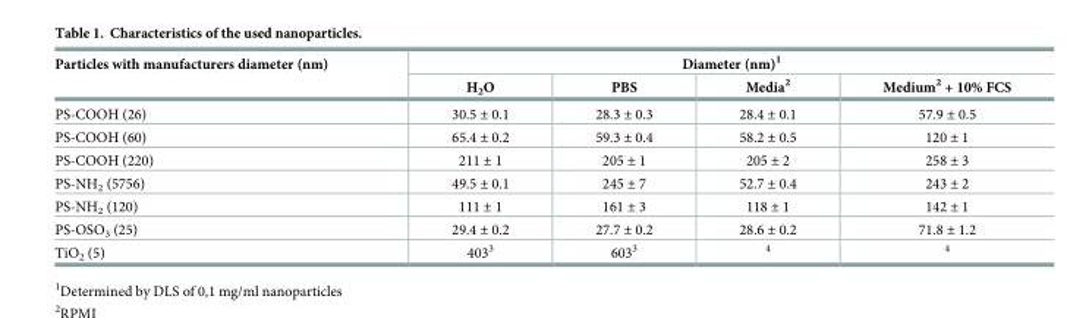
<table><thead><tr><td rowspan="2">Particles with manufacturers diameter (nm)</td><td colspan="4">Diameter (nm)<sup>1</sup></td></tr><tr><td>H<sub>2</sub>O</td><td>PBS</td><td>Media<sup>2</sup></td><td>Medium<sup>2</sup> + 10% FCS</td></tr></thead><tbody><tr><td>PS-COOH (26)</td><td>30.5 ± 0.1</td><td>28.3 ± 0.3</td><td>28.4 ± 0.1</td><td>57.9 ± 0.5</td></tr><tr><td>PS-COOH (60)</td><td>65.4 ± 0.2</td><td>59.3 ± 0.4</td><td>58.2 ± 0.5</td><td>120 ± 1</td></tr><tr><td>PS-COOH (220)</td><td>211 ± 1</td><td>205 ± 1</td><td>205 ± 2</td><td>258 ± 3</td></tr><tr><td>PS-NH<sub>2</sub> (5756)</td><td>49.5 ± 0.1</td><td>245 ± 7</td><td>52.7 ± 0.4</td><td>243 ± 2</td></tr><tr><td>PS-NH<sub>2</sub> (120)</td><td>111 ± 1</td><td>161 ± 3</td><td>118 ± 1</td><td>142 ± 1</td></tr><tr><td>PS-OSO<sub>3</sub> (25)</td><td>29.4 ± 0.2</td><td>27.7 ± 0.2</td><td>28.6 ± 0.2</td><td>71.8 ± 1.2</td></tr><tr><td>TiO<sub>2</sub> (5)</td><td>403<sup>3</sup></td><td>603<sup>3</sup></td><td><sup>4</sup></td><td><sup>4</sup></td></tr></tbody></table>